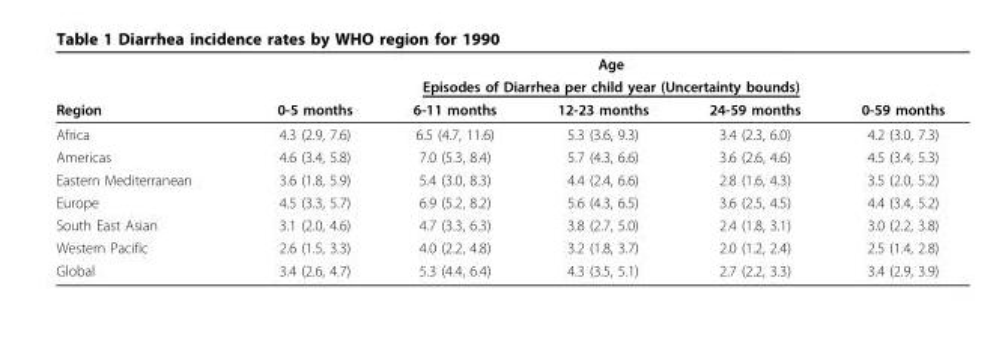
<table><thead><tr><td rowspan="3">Region</td><td rowspan="2" colspan="5">Age Episodes of Diarrhea per child year (Uncertainty bounds)</td></tr><tr></tr><tr><td>0-5 months</td><td>6-11 months</td><td>12-23 months</td><td>24-59 months</td><td>0-59 months</td></tr></thead><tbody><tr><td>Africa</td><td>4.3 (2.9, 7.6)</td><td>6.5 (4.7, 11.6)</td><td>5.3 (3.6, 9.3)</td><td>3.4 (2.3, 6.0)</td><td>4.2 (3.0, 7.3)</td></tr><tr><td>Americas</td><td>4.6 (3.4, 5.8)</td><td>7.0 (5.3, 8.4)</td><td>5.7 (4.3, 6.6)</td><td>3.6 (2.6, 4.6)</td><td>4.5 (3.4, 5.3)</td></tr><tr><td>Eastern Mediterranean</td><td>3.6 (1.8, 5.9)</td><td>5.4 (3.0, 8.3)</td><td>4.4 (2.4, 6.6)</td><td>2.8 (1.6, 4.3)</td><td>3.5 (2.0, 5.2)</td></tr><tr><td>Europe</td><td>4.5 (3.3, 5.7)</td><td>6.9 (5.2, 8.2)</td><td>5.6 (4.3, 6.5)</td><td>3.6 (2.5, 4.5)</td><td>4.4 (3.4, 5.2)</td></tr><tr><td>South East Asian</td><td>3.1 (2.0, 4.6)</td><td>4.7 (3.3, 6.3)</td><td>3.8 (2.7, 5.0)</td><td>2.4 (1.8, 3.1)</td><td>3.0 (2.2, 3.8)</td></tr><tr><td>Western Pacific</td><td>2.6 (1.5, 3.3)</td><td>4.0 (2.2, 4.8)</td><td>3.2 (1.8, 3.7)</td><td>2.0 (1.2, 2.4)</td><td>2.5 (1.4, 2.8)</td></tr><tr><td>Global</td><td>3.4 (2.6, 4.7)</td><td>5.3 (4.4, 6.4)</td><td>4.3 (3.5, 5.1)</td><td>2.7 (2.2, 3.3)</td><td>3.4 (2.9, 3.9)</td></tr></tbody></table>